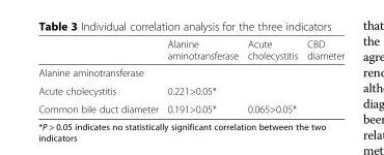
<table><thead><tr><td></td><td>Alanine aminotransferase</td><td>Acute cholecystitis</td><td>CBD diameter</td></tr></thead><tbody><tr><td colspan="4">Alanine aminotransferase</td></tr><tr><td>Acute cholecystitis</td><td>0.221&gt;0.05*</td><td></td><td></td></tr><tr><td>Common bile duct diameter</td><td>0.191&gt;0.05*</td><td>0.065&gt;0.05*</td><td></td></tr></tbody></table>